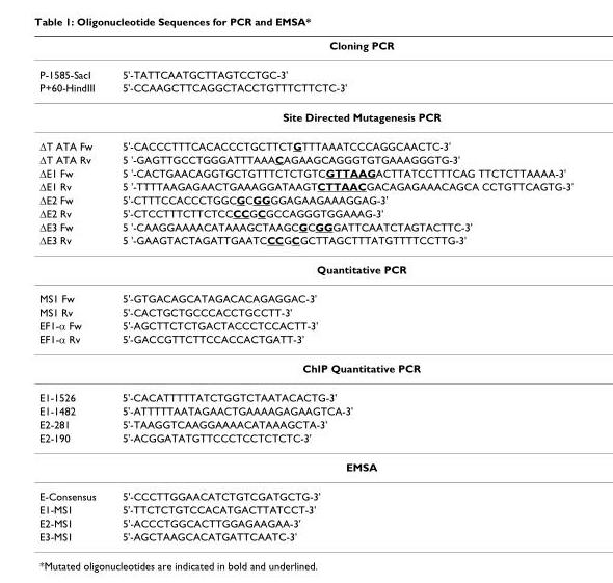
<table><thead><tr><td colspan="2">Cloning PCR</td></tr><tr><td>P-1585-SacI</td><td>5&#x27;-TATTCAATGCTTAGTCCTGC-3&#x27;</td></tr></thead><tbody><tr><td>P+60-HindIII</td><td>5&#x27;-CCAAGCTTCAGGCTACCTGTTTCTTCTC-3&#x27;</td></tr><tr><td colspan="2">Site Directed Mutagenesis PCR</td></tr><tr><td>∆T ATA Fw</td><td>5&#x27;-CACCCTTTCACACCCTGCTTCTGTTTAAATCCCAGGCAACTC-3&#x27;</td></tr><tr><td>∆T ATA Rv</td><td>5 &#x27;-GAGTTGCCTGGGATTTAAACAGAAGCAGGGTGTGAAAGGGTG-3&#x27;</td></tr><tr><td>∆E1 Fw</td><td>5 &#x27;-CACTGAACAGGTGCTGTTTCTCTGTCGTTAAGACTTATCCTTTCAG TTCTCTTAAAA-3&#x27;</td></tr><tr><td>∆E1 Rv</td><td>5 &#x27;-TTTTAAGAGAACTGAAAGGATAAGTCTTAACGACAGAGAAACAGCA CCTGTTCAGTG-3&#x27;</td></tr><tr><td>∆E2 Fw</td><td>5&#x27;-CTTTCCACCCTGGCGCGGGGAGAAGAAAGGAG-3&#x27;</td></tr><tr><td>∆E2 Rv</td><td>5&#x27;-CTCCTTTCTTCTCCCCGCGCCAGGGTGGAAAG-3&#x27;</td></tr><tr><td>∆E3 Fw</td><td>5 &#x27;-CAAGGAAAACATAAAGCTAAGCGCGGGATTCAATCTAGTACTTC-3&#x27;</td></tr><tr><td>∆E3 Rv</td><td>5 &#x27;-GAAGTACTAGATTGAATCCCGCGCTTAGCTTTATGTTTTCCTTG-3&#x27;</td></tr><tr><td colspan="2">Quantitative PCR</td></tr><tr><td>MS1 Fw</td><td>5&#x27;-GTGACAGCATAGACACAGAGGAC-3&#x27;</td></tr><tr><td>MS1 Rv</td><td>5&#x27;-CACTGCTGCCCACCTGCCTT-3&#x27;</td></tr><tr><td>EF1-α Fw</td><td>5&#x27;-AGCTTCTCTGACTACCCTCCACTT-3&#x27;</td></tr><tr><td>EF1-α Rv</td><td>5&#x27;-GACCGTTCTTCCACCACTGATT-3&#x27;</td></tr><tr><td colspan="2">ChIP Quantitative PCR</td></tr><tr><td>E1-1526</td><td>5&#x27;-CACATTTTTATCTGGTCTAATACACTG-3&#x27;</td></tr><tr><td>E1-1482</td><td>5&#x27;-ATTTTTAATAGAACTGAAAAGAGAAGTCA-3&#x27;</td></tr><tr><td>E2-281</td><td>5&#x27;-TAAGGTCAAGGAAAACATAAAGCTA-3&#x27;</td></tr><tr><td>E2-190</td><td>5&#x27;-ACGGATATGTTCCCTCCTCTCTC-3&#x27;</td></tr><tr><td colspan="2">EMSA</td></tr><tr><td>E-Consensus</td><td>5&#x27;-CCCTTGGAACATCTGTCGATGCTG-3&#x27;</td></tr><tr><td>E1-MS1</td><td>5&#x27;-TTCTCTGTCCACATGACTTATCCT-3&#x27;</td></tr><tr><td>E2-MS1</td><td>5&#x27;-ACCCTGGCACTTGGAGAAGAA-3&#x27;</td></tr><tr><td>E3-MS1</td><td>5&#x27;-AGCTAAGCACATGATTCAATC-3&#x27;</td></tr></tbody></table>